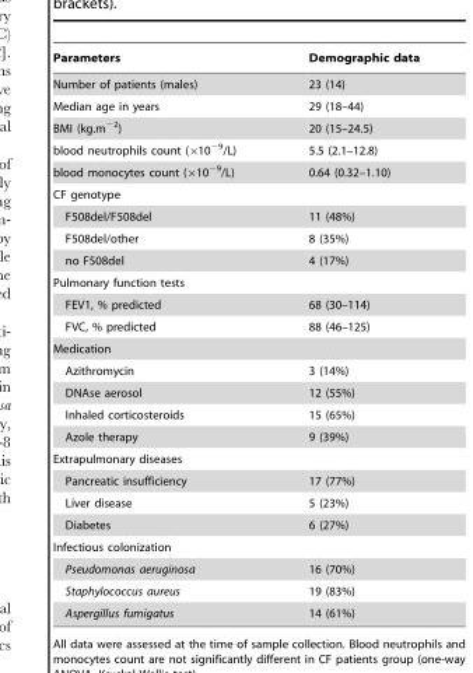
<table><thead><tr><td>Parameters</td><td>Demographic data</td></tr></thead><tbody><tr><td>Number of patients (males)</td><td>23 (14)</td></tr><tr><td>Median age in years</td><td>29 (18–44)</td></tr><tr><td>BMI (kg.m<sup>−2</sup>)</td><td>20 (15–24.5)</td></tr><tr><td>blood neutrophils count (×10<sup>−9</sup>/L)</td><td>5.5 (2.1–12.8)</td></tr><tr><td>blood monocytes count (×10<sup>−9</sup>/L)</td><td>0.64 (0.32–1.10)</td></tr><tr><td colspan="2">CF genotype</td></tr><tr><td>F508del/F508del</td><td>11 (48%)</td></tr><tr><td>F508del/other</td><td>8 (35%)</td></tr><tr><td>no F508del</td><td>4 (17%)</td></tr><tr><td colspan="2">Pulmonary function tests</td></tr><tr><td>FEV1, % predicted</td><td>68 (30–114)</td></tr><tr><td>FVC, % predicted</td><td>88 (46–125)</td></tr><tr><td colspan="2">Medication</td></tr><tr><td>Azithromycin</td><td>3 (14%)</td></tr><tr><td>DNAse aerosol</td><td>12 (55%)</td></tr><tr><td>Inhaled corticosteroids</td><td>15 (65%)</td></tr><tr><td>Azole therapy</td><td>9 (39%)</td></tr><tr><td colspan="2">Extrapulmonary diseases</td></tr><tr><td>Pancreatic insufficiency</td><td>17 (77%)</td></tr><tr><td>Liver disease</td><td>5 (23%)</td></tr><tr><td>Diabetes</td><td>6 (27%)</td></tr><tr><td colspan="2">Infectious colonization</td></tr><tr><td>Pseudomonas aeruginosa</td><td>16 (70%)</td></tr><tr><td>Staphylococcus aureus</td><td>19 (83%)</td></tr><tr><td>Aspergillus fumigatus</td><td>14 (61%)</td></tr></tbody></table>